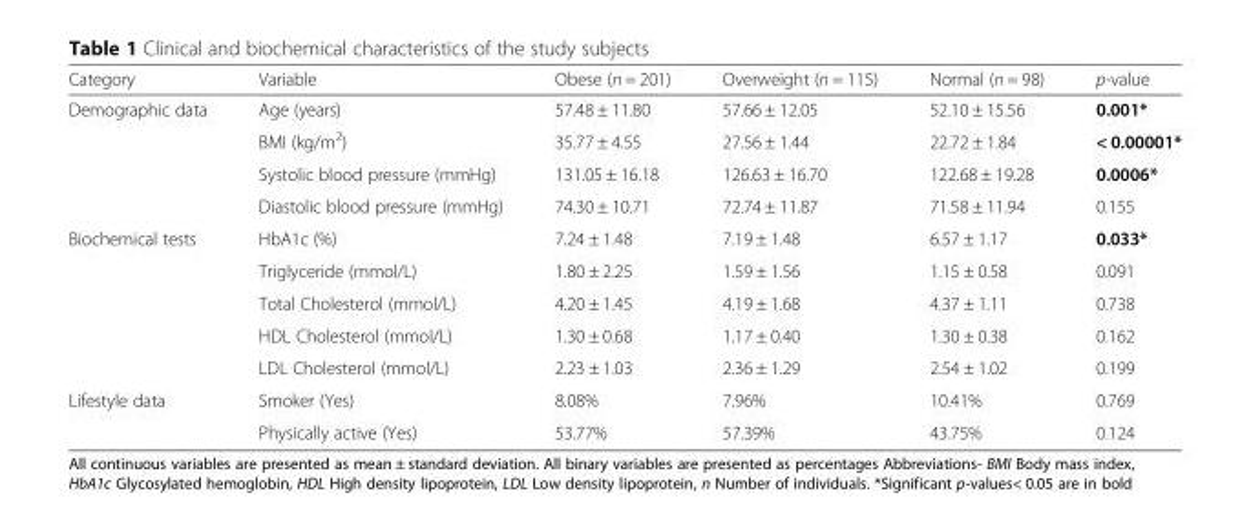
<table><thead><tr><td>Category</td><td>Variable</td><td>Obese (n = 201)</td><td>Overweight (n = 115)</td><td>Normal (n = 98)</td><td>p-value</td></tr></thead><tbody><tr><td rowspan="4">Demographic data</td><td>Age (years)</td><td>57.48 ± 11.80</td><td>57.66 ± 12.05</td><td>52.10 ± 15.56</td><td>0.001*</td></tr><tr><td>BMI (kg/m<sup>2</sup>)</td><td>35.77 ± 4.55</td><td>27.56 ± 1.44</td><td>22.72 ± 1.84</td><td>&lt; 0.00001*</td></tr><tr><td>Systolic blood pressure (mmHg)</td><td>131.05 ± 16.18</td><td>126.63 ± 16.70</td><td>122.68 ± 19.28</td><td>0.0006*</td></tr><tr><td>Diastolic blood pressure (mmHg)</td><td>74.30 ± 10.71</td><td>72.74 ± 11.87</td><td>71.58 ± 11.94</td><td>0.155</td></tr><tr><td rowspan="5">Biochemical tests</td><td>HbA1c (%)</td><td>7.24 ± 1.48</td><td>7.19 ± 1.48</td><td>6.57 ± 1.17</td><td>0.033*</td></tr><tr><td>Triglyceride (mmol/L)</td><td>1.80 ± 2.25</td><td>1.59 ± 1.56</td><td>1.15 ± 0.58</td><td>0.091</td></tr><tr><td>Total Cholesterol (mmol/L)</td><td>4.20 ± 1.45</td><td>4.19 ± 1.68</td><td>4.37 ± 1.11</td><td>0.738</td></tr><tr><td>HDL Cholesterol (mmol/L)</td><td>1.30 ± 0.68</td><td>1.17 ± 0.40</td><td>1.30 ± 0.38</td><td>0.162</td></tr><tr><td>LDL Cholesterol (mmol/L)</td><td>2.23 ± 1.03</td><td>2.36 ± 1.29</td><td>2.54 ± 1.02</td><td>0.199</td></tr><tr><td rowspan="2">Lifestyle data</td><td>Smoker (Yes)</td><td>8.08%</td><td>7.96%</td><td>10.41%</td><td>0.769</td></tr><tr><td>Physically active (Yes)</td><td>53.77%</td><td>57.39%</td><td>43.75%</td><td>0.124</td></tr></tbody></table>